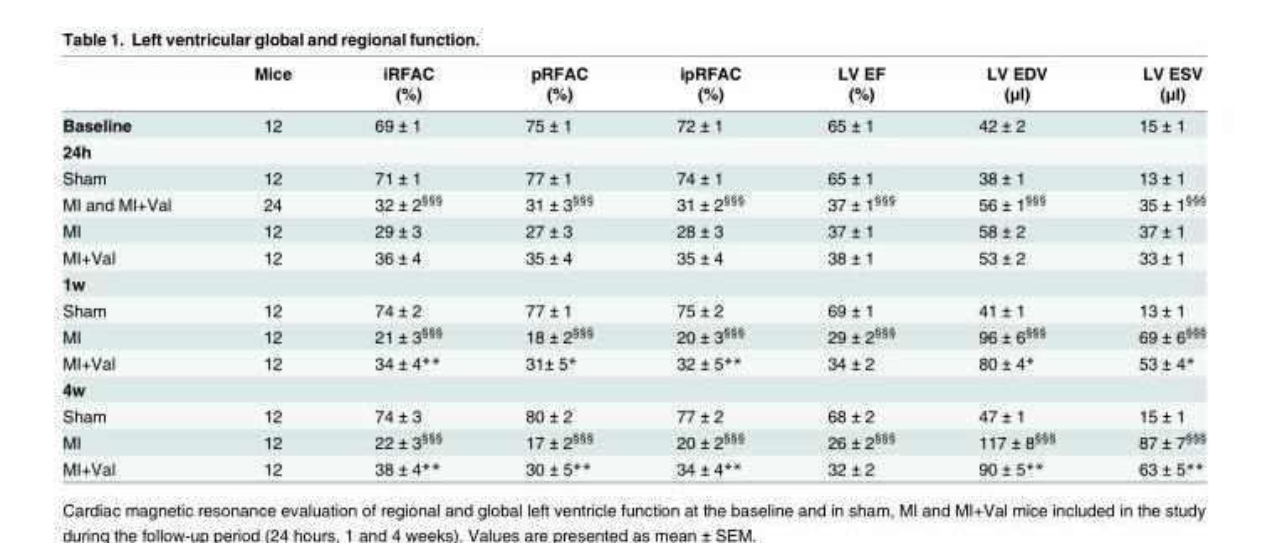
<table><thead><tr><td rowspan="2"></td><td rowspan="2">Mice</td><td rowspan="2">iRFAC (%)</td><td rowspan="2">pRFAC (%)</td><td rowspan="2">ipRFAC (%)</td><td rowspan="2">LV EF (%)</td><td rowspan="2">LV EDV (μl)</td><td rowspan="2">LV ESV (μl)</td></tr><tr></tr></thead><tbody><tr><td>Baseline</td><td>12</td><td>69 ± 1</td><td>75 ± 1</td><td>72 ± 1</td><td>65 ± 1</td><td>42 ± 2</td><td>15 ± 1</td></tr><tr><td colspan="8">24h</td></tr><tr><td>Sham</td><td>12</td><td>71 ± 1</td><td>77 ± 1</td><td>74 ± 1</td><td>65 ± 1</td><td>38 ± 1</td><td>13 ± 1</td></tr><tr><td>MI and MI+Val</td><td>24</td><td>32 ± 2<sup>§§§</sup></td><td>31 ± 3<sup>§§§</sup></td><td>31 ± 2<sup>§§§</sup></td><td>37 ± 1<sup>§§§</sup></td><td>56 ± 1<sup>§§§</sup></td><td>35 ± 1<sup>§§§</sup></td></tr><tr><td>MI</td><td>12</td><td>29 ± 3</td><td>27 ± 3</td><td>28 ± 3</td><td>37 ± 1</td><td>58 ± 2</td><td>37 ± 1</td></tr><tr><td>MI+Val</td><td>12</td><td>36 ± 4</td><td>35 ± 4</td><td>35 ± 4</td><td>38 ± 1</td><td>53 ± 2</td><td>33 ± 1</td></tr><tr><td colspan="8">1w</td></tr><tr><td>Sham</td><td>12</td><td>74 ± 2</td><td>77 ± 1</td><td>75 ± 2</td><td>69 ± 1</td><td>41 ± 1</td><td>13 ± 1</td></tr><tr><td>MI</td><td>12</td><td>21 ± 3<sup>§§§</sup></td><td>18 ± 2<sup>§§§</sup></td><td>20 ± 3<sup>§§§</sup></td><td>29 ± 2<sup>§§§</sup></td><td>96 ± 6<sup>§§§</sup></td><td>69 ± 6<sup>§§§</sup></td></tr><tr><td>MI+Val</td><td>12</td><td>34 ± 4**</td><td>31± 5*</td><td>32 ± 5**</td><td>34 ± 2</td><td>80 ± 4*</td><td>53 ± 4*</td></tr><tr><td colspan="8">4w</td></tr><tr><td>Sham</td><td>12</td><td>74 ± 3</td><td>80 ± 2</td><td>77 ± 2</td><td>68 ± 2</td><td>47 ± 1</td><td>15 ± 1</td></tr><tr><td>MI</td><td>12</td><td>22 ± 3<sup>§§§</sup></td><td>17 ± 2<sup>§§§</sup></td><td>20 ± 2<sup>§§§</sup></td><td>26 ± 2<sup>§§§</sup></td><td>117 ± 8<sup>§§§</sup></td><td>87 ± 7<sup>§§§</sup></td></tr><tr><td>MI+Val</td><td>12</td><td>38 ± 4**</td><td>30 ± 5**</td><td>34 ± 4**</td><td>32 ± 2</td><td>90 ± 5**</td><td>63 ± 5**</td></tr></tbody></table>